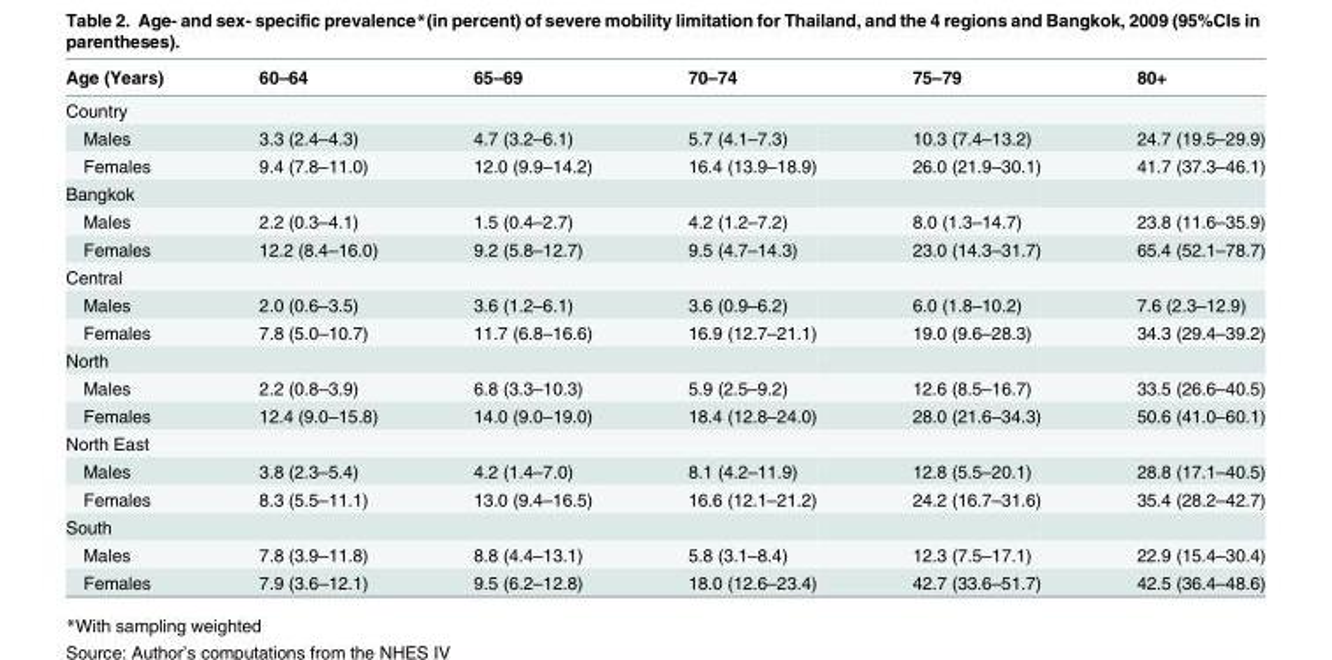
<table><thead><tr><td>Age (Years)</td><td>60–64</td><td>65–69</td><td>70–74</td><td>75–79</td><td>80+</td></tr></thead><tbody><tr><td colspan="6">Country</td></tr><tr><td>Males</td><td>3.3 (2.4–4.3)</td><td>4.7 (3.2–6.1)</td><td>5.7 (4.1–7.3)</td><td>10.3 (7.4–13.2)</td><td>24.7 (19.5–29.9)</td></tr><tr><td>Females</td><td>9.4 (7.8–11.0)</td><td>12.0 (9.9–14.2)</td><td>16.4 (13.9–18.9)</td><td>26.0 (21.9–30.1)</td><td>41.7 (37.3–46.1)</td></tr><tr><td colspan="6">Bangkok</td></tr><tr><td>Males</td><td>2.2 (0.3–4.1)</td><td>1.5 (0.4–2.7)</td><td>4.2 (1.2–7.2)</td><td>8.0 (1.3–14.7)</td><td>23.8 (11.6–35.9)</td></tr><tr><td>Females</td><td>12.2 (8.4–16.0)</td><td>9.2 (5.8–12.7)</td><td>9.5 (4.7–14.3)</td><td>23.0 (14.3–31.7)</td><td>65.4 (52.1–78.7)</td></tr><tr><td colspan="6">Central</td></tr><tr><td>Males</td><td>2.0 (0.6–3.5)</td><td>3.6 (1.2–6.1)</td><td>3.6 (0.9–6.2)</td><td>6.0 (1.8–10.2)</td><td>7.6 (2.3–12.9)</td></tr><tr><td>Females</td><td>7.8 (5.0–10.7)</td><td>11.7 (6.8–16.6)</td><td>16.9 (12.7–21.1)</td><td>19.0 (9.6–28.3)</td><td>34.3 (29.4–39.2)</td></tr><tr><td colspan="6">North</td></tr><tr><td>Males</td><td>2.2 (0.8–3.9)</td><td>6.8 (3.3–10.3)</td><td>5.9 (2.5–9.2)</td><td>12.6 (8.5–16.7)</td><td>33.5 (26.6–40.5)</td></tr><tr><td>Females</td><td>12.4 (9.0–15.8)</td><td>14.0 (9.0–19.0)</td><td>18.4 (12.8–24.0)</td><td>28.0 (21.6–34.3)</td><td>50.6 (41.0–60.1)</td></tr><tr><td colspan="6">North East</td></tr><tr><td>Males</td><td>3.8 (2.3–5.4)</td><td>4.2 (1.4–7.0)</td><td>8.1 (4.2–11.9)</td><td>12.8 (5.5–20.1)</td><td>28.8 (17.1–40.5)</td></tr><tr><td>Females</td><td>8.3 (5.5–11.1)</td><td>13.0 (9.4–16.5)</td><td>16.6 (12.1–21.2)</td><td>24.2 (16.7–31.6)</td><td>35.4 (28.2–42.7)</td></tr><tr><td colspan="6">South</td></tr><tr><td>Males</td><td>7.8 (3.9–11.8)</td><td>8.8 (4.4–13.1)</td><td>5.8 (3.1–8.4)</td><td>12.3 (7.5–17.1)</td><td>22.9 (15.4–30.4)</td></tr><tr><td>Females</td><td>7.9 (3.6–12.1)</td><td>9.5 (6.2–12.8)</td><td>18.0 (12.6–23.4)</td><td>42.7 (33.6–51.7)</td><td>42.5 (36.4–48.6)</td></tr></tbody></table>